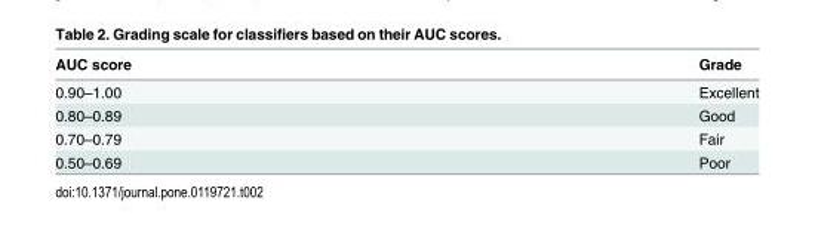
<table><thead><tr><td>AUC score</td><td>Grade</td></tr></thead><tbody><tr><td>0.90–1.00</td><td>Excellent</td></tr><tr><td>0.80–0.89</td><td>Good</td></tr><tr><td>0.70–0.79</td><td>Fair</td></tr><tr><td>0.50–0.69</td><td>Poor</td></tr></tbody></table>